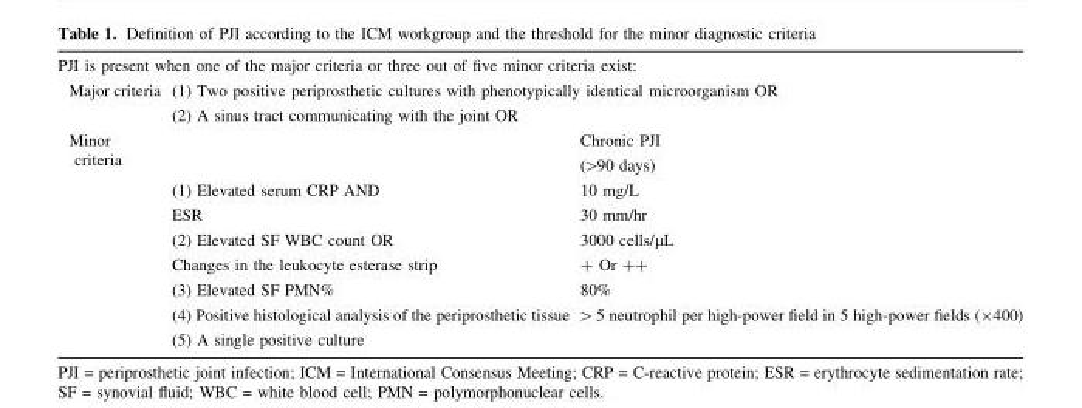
<table><tbody><tr><td colspan="3">PJI is present when one of the major criteria or three out of five minor criteria exist:</td></tr><tr><td>Major criteria</td><td colspan="2">(1) Two positive periprosthetic cultures with phenotypically identical microorganism OR (2) A sinus tract communicating with the joint OR</td></tr><tr><td rowspan="6">Minor criteria</td><td></td><td>Chronic PJI (&gt;90 days)</td></tr><tr><td>(1) Elevated serum CRP AND ESR</td><td>10 mg/L 30 mm/hr</td></tr><tr><td>(2) Elevated SF WBC count OR Changes in the leukocyte esterase strip</td><td>3000 cells/μL + Or ++</td></tr><tr><td>(3) Elevated SF PMN%</td><td>80%</td></tr><tr><td>(4) Positive histological analysis of the periprosthetic tissue</td><td>&gt;5 neutrophil per high-power field in 5 high-power fields (×400)</td></tr><tr><td>(5) A single positive culture</td><td></td></tr></tbody></table>